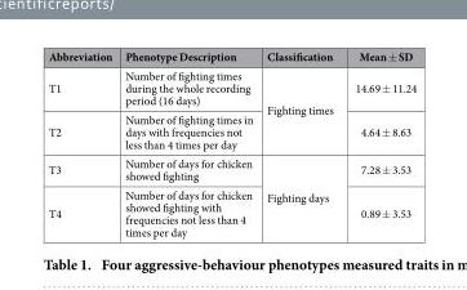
<table><thead><tr><td>Abbreviation</td><td>Phenotype Description</td><td>Classification</td><td>Mean ± SD</td></tr></thead><tbody><tr><td>T1</td><td>Number of fighting times during the whole recording period (16 days)</td><td rowspan="2">Fighting times</td><td>14.69 ± 11.24</td></tr><tr><td>T2</td><td>Number of fighting times in days with frequencies not less than 4 times per day</td><td>4.64 ± 8.63</td></tr><tr><td>T3</td><td>Number of days for chicken showed fighting</td><td rowspan="2">Fighting days</td><td>7.28 ± 3.53</td></tr><tr><td>T4</td><td>Number of days for chicken showed fighting with frequencies not less than 4 times per day</td><td>0.89 ± 3.53</td></tr></tbody></table>